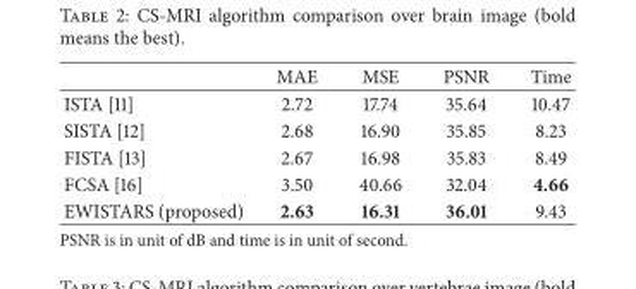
<table><thead><tr><td></td><td>MAE</td><td>MSE</td><td>PSNR</td><td>Time</td></tr></thead><tbody><tr><td>ISTA [11]</td><td>2.72</td><td>17.74</td><td>35.64</td><td>10.47</td></tr><tr><td>SISTA [12]</td><td>2.68</td><td>16.90</td><td>35.85</td><td>8.23</td></tr><tr><td>FISTA [13]</td><td>2.67</td><td>16.98</td><td>35.83</td><td>8.49</td></tr><tr><td>FCSA [16]</td><td>3.50</td><td>40.66</td><td>32.04</td><td>4.66</td></tr><tr><td>EWISTARS (proposed)</td><td>2.63</td><td>16.31</td><td>36.01</td><td>9.43</td></tr></tbody></table>